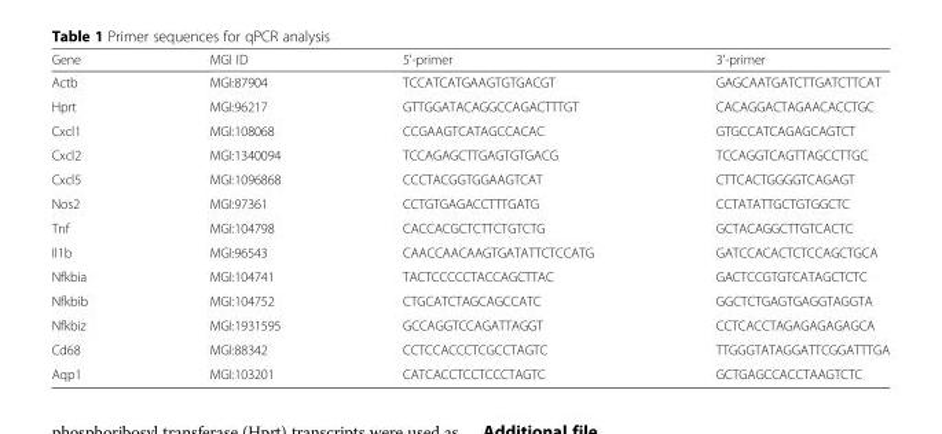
<table><thead><tr><td>Gene</td><td>MGI ID</td><td>5&#x27;-primer</td><td>3&#x27;-primer</td></tr></thead><tbody><tr><td>Actb</td><td>MGI:87904</td><td>TCCATCATGAAGTGTGACGT</td><td>GAGCAATGATCTTGATCTTCAT</td></tr><tr><td>Hprt</td><td>MGI:96217</td><td>GTTGGATACAGGCCAGACTTTGT</td><td>CACAGGACTAGAACACCTGC</td></tr><tr><td>Cxcl1</td><td>MGI:108068</td><td>CCGAAGTCATAGCCACAC</td><td>GTGCCATCAGAGCAGTCT</td></tr><tr><td>Cxcl2</td><td>MGI:1340094</td><td>TCCAGAGCTTGAGTGTGACG</td><td>TCCAGGTCAGTTAGCCTTGC</td></tr><tr><td>Cxcl5</td><td>MGI:1096868</td><td>CCCTACGGTGGAAGTCAT</td><td>CTTCACTGGGGTCAGAGT</td></tr><tr><td>Nos2</td><td>MGI:97361</td><td>CCTGTGAGACCTTTGATG</td><td>CCTATATTGCTGTGGCTC</td></tr><tr><td>Tnf</td><td>MGI:104798</td><td>CACCACGCTCTTCTGTCTG</td><td>GCTACAGGCTTGTCACTC</td></tr><tr><td>Il1b</td><td>MGI:96543</td><td>CAACCAACAAGTGATATTCTCCATG</td><td>GATCCACACTCTCCAGCTGCA</td></tr><tr><td>Nfkbia</td><td>MGI:104741</td><td>TACTCCCCCTACCAGCTTAC</td><td>GACTCCGTGTCATAGCTCTC</td></tr><tr><td>Nfkbib</td><td>MGI:104752</td><td>CTGCATCTAGCAGCCATC</td><td>GGCTCTGAGTGAGGTAGGTA</td></tr><tr><td>Nfkbiz</td><td>MGI:1931595</td><td>GCCAGGTCCAGATTAGGT</td><td>CCTCACCTAGAGAGAGAGCA</td></tr><tr><td>Cd68</td><td>MGI:88342</td><td>CCTCCACCCTCGCCTAGTC</td><td>TTGGGTATAGGATTCGGATTTGA</td></tr><tr><td>Aqp1</td><td>MGI:103201</td><td>CATCACCTCCTCCCTAGTC</td><td>GCTGAGCCACCTAAGTCTC</td></tr></tbody></table>